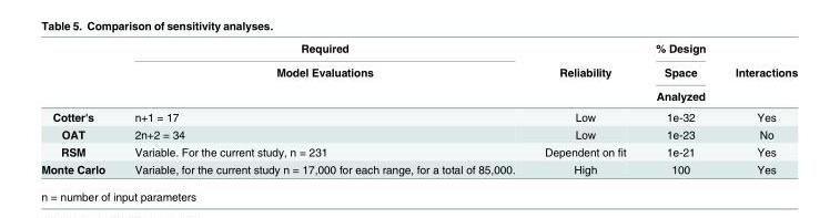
<table><thead><tr><td rowspan="3"></td><td rowspan="3">Required Model Evaluations</td><td rowspan="3">Reliability</td><td rowspan="3">% Design Space Analyzed</td><td rowspan="3">Interactions</td></tr><tr></tr><tr></tr></thead><tbody><tr><td>Cotter&#x27;s</td><td>n+1 = 17</td><td>Low</td><td>1e-32</td><td>Yes</td></tr><tr><td>OAT</td><td>2n+2 = 34</td><td>Low</td><td>1e-23</td><td>No</td></tr><tr><td>RSM</td><td>Variable. For the current study, n = 231</td><td>Dependent on fit</td><td>1e-21</td><td>Yes</td></tr><tr><td>Monte Carlo</td><td>Variable, for the current study n = 17,000 for each range, for a total of 85,000.</td><td>High</td><td>100</td><td>Yes</td></tr></tbody></table>